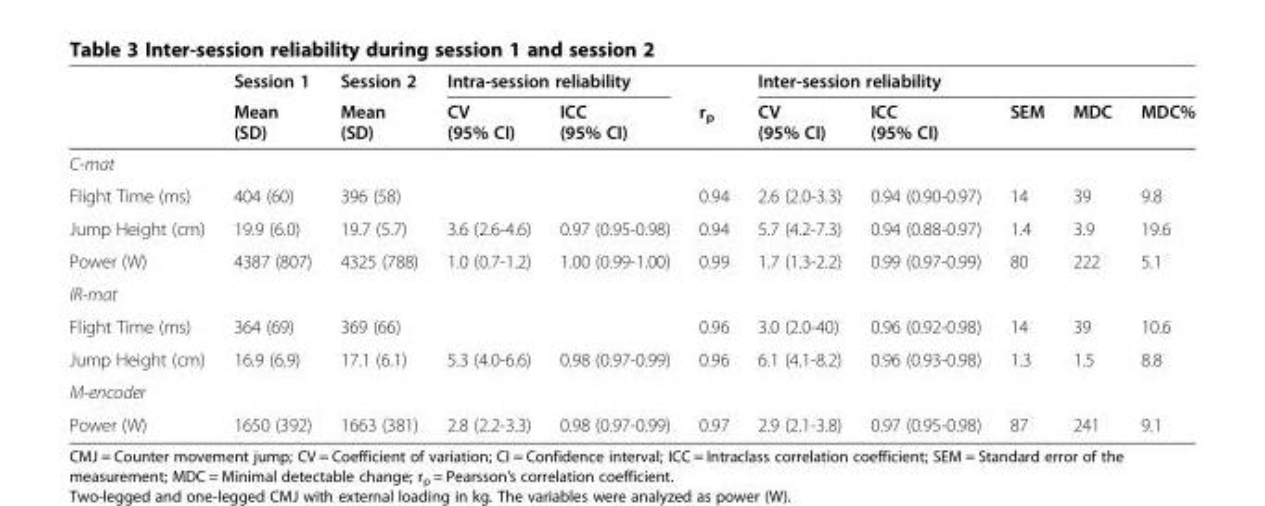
<table><thead><tr><td rowspan="2"></td><td rowspan="2">Session 1 Mean (SD)</td><td rowspan="2">Session 2 Mean (SD)</td><td colspan="2">Intra-session reliability</td><td rowspan="2">r<sub>p</sub></td><td colspan="5">Inter-session reliability</td></tr><tr><td>CV (95% CI)</td><td>ICC (95% CI)</td><td>CV (95% CI)</td><td>ICC (95% CI)</td><td>SEM</td><td>MDC</td><td>MDC%</td></tr></thead><tbody><tr><td colspan="11">C-mat</td></tr><tr><td>Flight Time (ms)</td><td>404 (60)</td><td>396 (58)</td><td></td><td></td><td>0.94</td><td>2.6 (2.0-3.3)</td><td>0.94 (0.90-0.97)</td><td>14</td><td>39</td><td>9.8</td></tr><tr><td>Jump Height (cm)</td><td>19.9 (6.0)</td><td>19.7 (5.7)</td><td>3.6 (2.6-4.6)</td><td>0.97 (0.95-0.98)</td><td>0.94</td><td>5.7 (4.2-7.3)</td><td>0.94 (0.88-0.97)</td><td>1.4</td><td>3.9</td><td>19.6</td></tr><tr><td>Power (W)</td><td>4387 (807)</td><td>4325 (788)</td><td>1.0 (0.7-1.2)</td><td>1.00 (0.99-1.00)</td><td>0.99</td><td>1.7 (1.3-2.2)</td><td>0.99 (0.97-0.99)</td><td>80</td><td>222</td><td>5.1</td></tr><tr><td colspan="11">IR-mat</td></tr><tr><td>Flight Time (ms)</td><td>364 (69)</td><td>369 (66)</td><td></td><td></td><td>0.96</td><td>3.0 (2.0-40)</td><td>0.96 (0.92-0.98)</td><td>14</td><td>39</td><td>10.6</td></tr><tr><td>Jump Height (cm)</td><td>16.9 (6.9)</td><td>17.1 (6.1)</td><td>5.3 (4.0-6.6)</td><td>0.98 (0.97-0.99)</td><td>0.96</td><td>6.1 (4.1-8.2)</td><td>0.96 (0.93-0.98)</td><td>1.3</td><td>1.5</td><td>8.8</td></tr><tr><td colspan="11">M-encoder</td></tr><tr><td>Power (W)</td><td>1650 (392)</td><td>1663 (381)</td><td>2.8 (2.2-3.3)</td><td>0.98 (0.97-0.99)</td><td>0.97</td><td>2.9 (2.1-3.8)</td><td>0.97 (0.95-0.98)</td><td>87</td><td>241</td><td>9.1</td></tr></tbody></table>